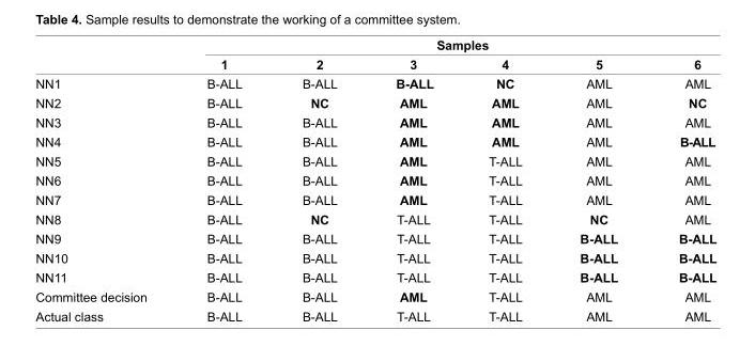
<table><thead><tr><td rowspan="2"></td><td colspan="6">samples</td></tr><tr><td>1</td><td>2</td><td>3</td><td>4</td><td>5</td><td>6</td></tr></thead><tbody><tr><td>NN1</td><td>B-ALL</td><td>B-ALL</td><td>B-ALL</td><td>nc</td><td>AML</td><td>AML</td></tr><tr><td>NN2</td><td>B-ALL</td><td>nc</td><td>AML</td><td>AML</td><td>AML</td><td>nc</td></tr><tr><td>NN3</td><td>B-ALL</td><td>B-ALL</td><td>AML</td><td>AML</td><td>AML</td><td>AML</td></tr><tr><td>NN4</td><td>B-ALL</td><td>B-ALL</td><td>AML</td><td>AML</td><td>AML</td><td>B-ALL</td></tr><tr><td>NN5</td><td>B-ALL</td><td>B-ALL</td><td>AML</td><td>T-ALL</td><td>AML</td><td>AML</td></tr><tr><td>NN6</td><td>B-ALL</td><td>B-ALL</td><td>AML</td><td>T-ALL</td><td>AML</td><td>AML</td></tr><tr><td>NN7</td><td>B-ALL</td><td>B-ALL</td><td>AML</td><td>T-ALL</td><td>AML</td><td>AML</td></tr><tr><td>NN8</td><td>B-ALL</td><td>nc</td><td>T-ALL</td><td>T-ALL</td><td>nc</td><td>AML</td></tr><tr><td>NN9</td><td>B-ALL</td><td>B-ALL</td><td>T-ALL</td><td>T-ALL</td><td>B-ALL</td><td>B-ALL</td></tr><tr><td>NN10</td><td>B-ALL</td><td>B-ALL</td><td>T-ALL</td><td>T-ALL</td><td>B-ALL</td><td>B-ALL</td></tr><tr><td>NN11</td><td>B-ALL</td><td>B-ALL</td><td>T-ALL</td><td>T-ALL</td><td>B-ALL</td><td>B-ALL</td></tr><tr><td>Committee decision</td><td>B-ALL</td><td>B-ALL</td><td>AML</td><td>T-ALL</td><td>AML</td><td>AML</td></tr><tr><td>Actual class</td><td>B-ALL</td><td>B-ALL</td><td>T-ALL</td><td>T-ALL</td><td>AML</td><td>AML</td></tr></tbody></table>